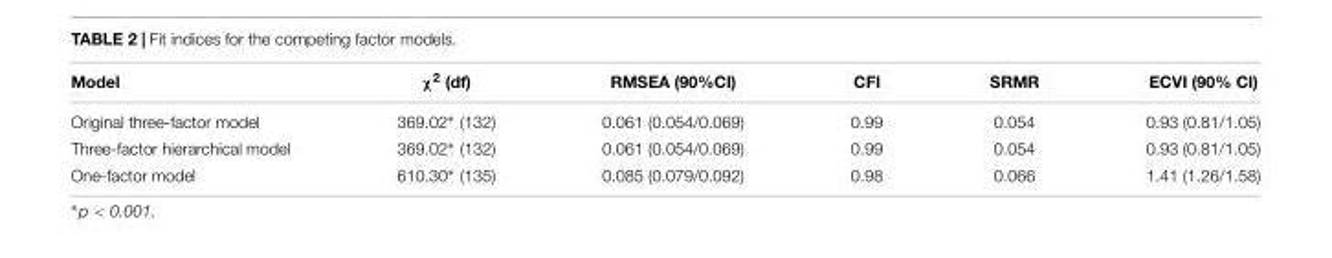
<table><thead><tr><td>Model</td><td>χ<sup>2</sup> (df)</td><td>RMSEA (90%CI)</td><td>CFI</td><td>SRMR</td><td>ECVI (90% CI)</td></tr></thead><tbody><tr><td>Original three-factor model</td><td>369.02∗ (132)</td><td>0.061 (0.054/0.069)</td><td>0.99</td><td>0.054</td><td>0.93 (0.81/1.05)</td></tr><tr><td>Three-factor hierarchical model</td><td>369.02∗ (132)</td><td>0.061 (0.054/0.069)</td><td>0.99</td><td>0.054</td><td>0.93 (0.81/1.05)</td></tr><tr><td>One-factor model</td><td>610.30∗ (135)</td><td>0.085 (0.079/0.092)</td><td>0.98</td><td>0.066</td><td>1.41 (1.26/1.58)</td></tr></tbody></table>